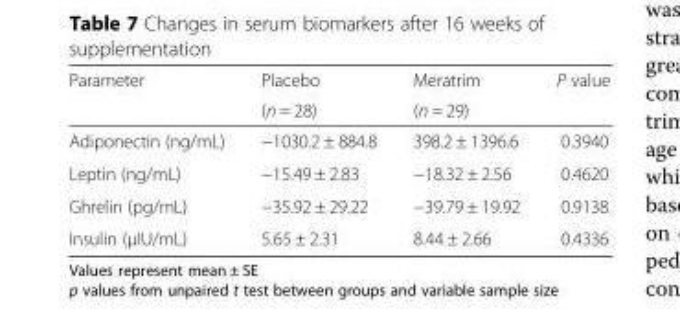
<table><thead><tr><td rowspan="2">Parameter</td><td rowspan="2">Placebo (n = 28)</td><td rowspan="2">Meratrim (n = 29)</td><td rowspan="2">P value</td></tr><tr></tr></thead><tbody><tr><td>Adiponectin (ng/mL)</td><td>−1030.2 ± 884.8</td><td>398.2 ± 1396.6</td><td>0.3940</td></tr><tr><td>Leptin (ng/mL)</td><td>−15.49 ± 2.83</td><td>−18.32 ± 2.56</td><td>0.4620</td></tr><tr><td>Ghrelin (pg/mL)</td><td>−35.92 ± 29.22</td><td>−39.79 ± 19.92</td><td>0.9138</td></tr><tr><td>Insulin (μIU/mL)</td><td>5.65 ± 2.31</td><td>8.44 ± 2.66</td><td>0.4336</td></tr></tbody></table>